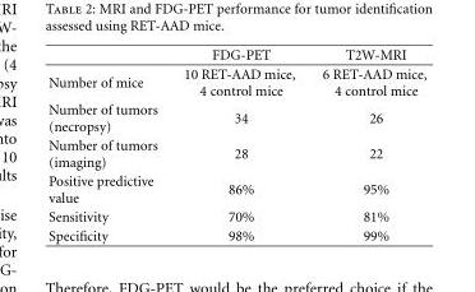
<table><thead><tr><td></td><td>FDG-PET</td><td>T2W-MRI</td></tr></thead><tbody><tr><td>Number of mice</td><td>10 RET-AAD mice, 4 control mice</td><td>6 RET-AAD mice, 4 control mice</td></tr><tr><td>Number of tumors (necropsy)</td><td>34</td><td>26</td></tr><tr><td>Number of tumors (imaging)</td><td>28</td><td>22</td></tr><tr><td>Positive predictive value</td><td>86%</td><td>95%</td></tr><tr><td>Sensitivity</td><td>70%</td><td>81%</td></tr><tr><td>Specificity</td><td>98%</td><td>99%</td></tr></tbody></table>